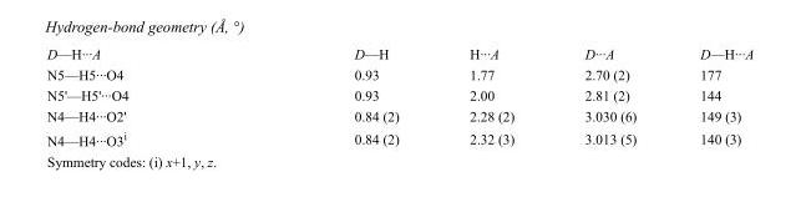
<table><tbody><tr><td>D—H···A</td><td>D—H</td><td>H···A</td><td>D···A</td><td>D—H···A</td></tr><tr><td>N5—H5···O4</td><td>0.93</td><td>1.77</td><td>2.70 (2)</td><td>177</td></tr><tr><td>N5&#x27;—H5&#x27;···O4</td><td>0.93</td><td>2.00</td><td>2.81 (2)</td><td>144</td></tr><tr><td>N4—H4···O2&#x27;</td><td>0.84 (2)</td><td>2.28 (2)</td><td>3.030 (6)</td><td>149 (3)</td></tr><tr><td>N4—H4···O3<sup>i</sup></td><td>0.84 (2)</td><td>2.32 (3)</td><td>3.013 (5)</td><td>140 (3)</td></tr></tbody></table>